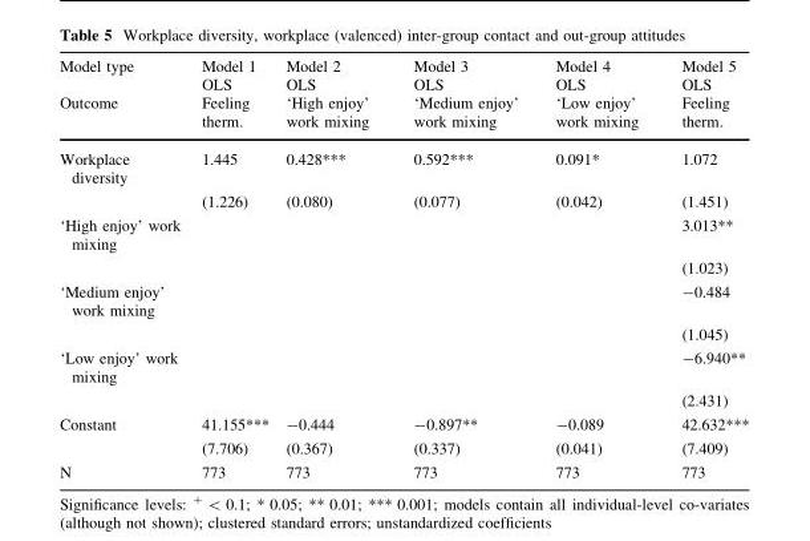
<table><thead><tr><td rowspan="3">Model type Outcome</td><td rowspan="3">Model 1 OLS Feeling therm.</td><td rowspan="3">Model 2 OLS ‘High enjoy’ work mixing</td><td rowspan="3">Model 3 OLS ‘Medium enjoy’ work mixing</td><td rowspan="3">Model 4 OLS ‘Low enjoy’ work mixing</td><td rowspan="3">Model 5 OLS Feeling therm.</td></tr><tr></tr><tr></tr></thead><tbody><tr><td rowspan="2">Workplace diversity</td><td>1.445</td><td>0.428***</td><td>0.592***</td><td>0.091*</td><td>1.072</td></tr><tr><td>(1.226)</td><td>(0.080)</td><td>(0.077)</td><td>(0.042)</td><td>(1.451)</td></tr><tr><td rowspan="2">‘High enjoy’ work mixing</td><td></td><td></td><td></td><td></td><td>3.013**</td></tr><tr><td></td><td></td><td></td><td></td><td>(1.023)</td></tr><tr><td rowspan="2">‘Medium enjoy’ work mixing</td><td></td><td></td><td></td><td></td><td>-0.484</td></tr><tr><td></td><td></td><td></td><td></td><td>(1.045)</td></tr><tr><td rowspan="2">‘Low enjoy’ work mixing</td><td></td><td></td><td></td><td></td><td>-6.940**</td></tr><tr><td></td><td></td><td></td><td></td><td>(2.431)</td></tr><tr><td rowspan="2">Constant</td><td>41.155***</td><td>-0.444</td><td>-0.897**</td><td>-0.089</td><td>42.632***</td></tr><tr><td>(7.706)</td><td>(0.367)</td><td>(0.337)</td><td>(0.041)</td><td>(7.409)</td></tr><tr><td>N</td><td>773</td><td>773</td><td>773</td><td>773</td><td>773</td></tr></tbody></table>